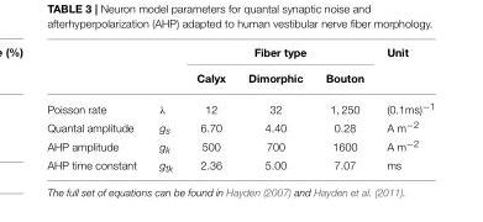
<table><thead><tr><td rowspan="2"></td><td rowspan="2"></td><td colspan="3">Fiber type</td><td rowspan="2">Unit</td></tr><tr><td>Calyx</td><td>Dimorphic</td><td>Bouton</td></tr></thead><tbody><tr><td>Poisson rate</td><td>λ</td><td>12</td><td>32</td><td>1, 250</td><td>(0.1ms)<sup>−1</sup></td></tr><tr><td>Quantal amplitude</td><td>g<sub>s</sub></td><td>6.70</td><td>4.40</td><td>0.28</td><td>A m<sup>−2</sup></td></tr><tr><td>AHP amplitude</td><td>g<sub>k</sub></td><td>500</td><td>700</td><td>1600</td><td>A m<sup>−2</sup></td></tr><tr><td>AHP time constant</td><td>g<sub>tk</sub></td><td>2.36</td><td>5.00</td><td>7.07</td><td>ms</td></tr></tbody></table>